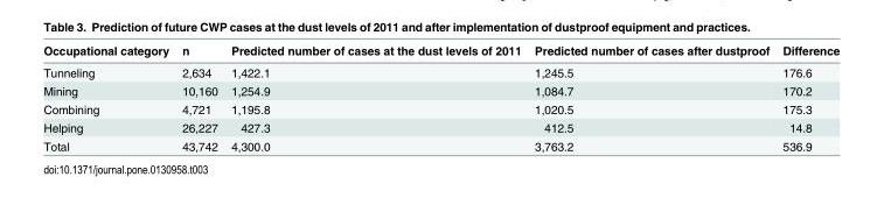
<table><thead><tr><td>Occupational category</td><td>n</td><td>Predicted number of cases at the dust levels of 2011</td><td>Predicted number of cases after dustproof</td><td>Difference</td></tr></thead><tbody><tr><td>Tunneling</td><td>2,634</td><td>1,422.1</td><td>1,245.5</td><td>176.6</td></tr><tr><td>Mining</td><td>10,160</td><td>1,254.9</td><td>1,084.7</td><td>170.2</td></tr><tr><td>Combining</td><td>4,721</td><td>1,195.8</td><td>1,020.5</td><td>175.3</td></tr><tr><td>Helping</td><td>26,227</td><td>427.3</td><td>412.5</td><td>14.8</td></tr><tr><td>Total</td><td>43,742</td><td>4,300.0</td><td>3,763.2</td><td>536.9</td></tr></tbody></table>